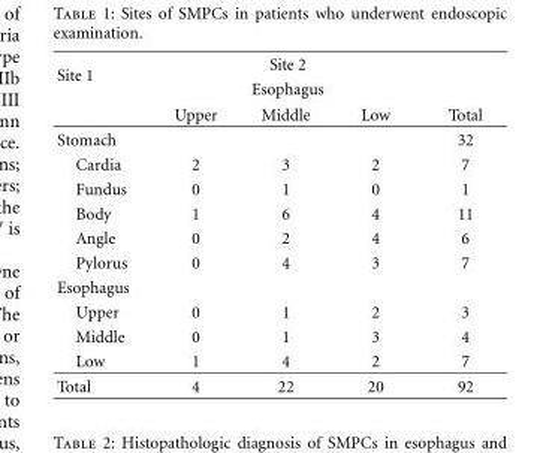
<table><thead><tr><td rowspan="3">Site 1</td><td rowspan="2" colspan="3">Site 2 Esophagus</td><td rowspan="3">Total</td></tr><tr></tr><tr><td>Upper</td><td>Middle</td><td>Low</td></tr></thead><tbody><tr><td>Stomach</td><td></td><td></td><td></td><td>32</td></tr><tr><td>Cardia</td><td>2</td><td>3</td><td>2</td><td>7</td></tr><tr><td>Fundus</td><td>0</td><td>1</td><td>0</td><td>1</td></tr><tr><td>Body</td><td>1</td><td>6</td><td>4</td><td>11</td></tr><tr><td>Angle</td><td>0</td><td>2</td><td>4</td><td>6</td></tr><tr><td>Pylorus</td><td>0</td><td>4</td><td>3</td><td>7</td></tr><tr><td colspan="5">Esophagus</td></tr><tr><td>Upper</td><td>0</td><td>1</td><td>2</td><td>3</td></tr><tr><td>Middle</td><td>0</td><td>1</td><td>3</td><td>4</td></tr><tr><td>Low</td><td>1</td><td>4</td><td>2</td><td>7</td></tr><tr><td>Total</td><td>4</td><td>22</td><td>20</td><td>92</td></tr></tbody></table>